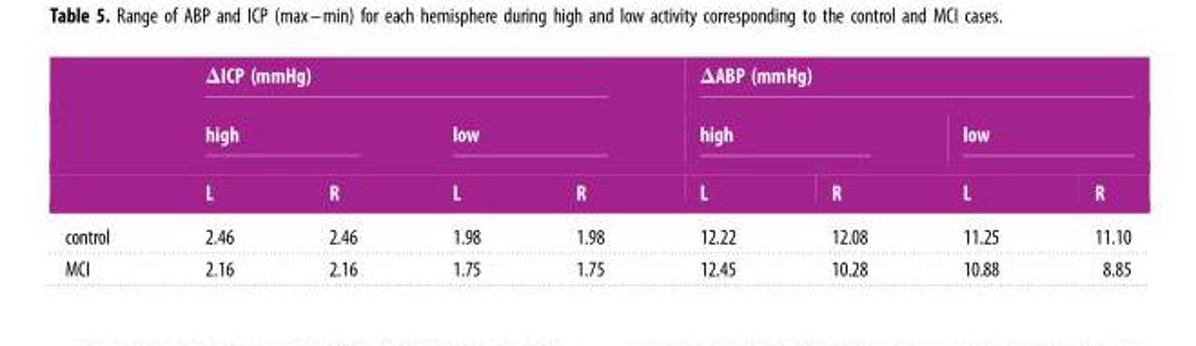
<table><thead><tr><td rowspan="3"></td><td colspan="4">ΔICP (mmHg)</td><td colspan="4">ΔABP (mmHg)</td></tr><tr><td colspan="2">high</td><td colspan="2">low</td><td colspan="2">high</td><td colspan="2">low</td></tr><tr><td>L</td><td>R</td><td>L</td><td>R</td><td>L</td><td>R</td><td>L</td><td>R</td></tr></thead><tbody><tr><td>control</td><td>2.46</td><td>2.46</td><td>1.98</td><td>1.98</td><td>12.22</td><td>12.08</td><td>11.25</td><td>11.10</td></tr><tr><td>MCI</td><td>2.16</td><td>2.16</td><td>1.75</td><td>1.75</td><td>12.45</td><td>10.28</td><td>10.88</td><td>8.85</td></tr></tbody></table>